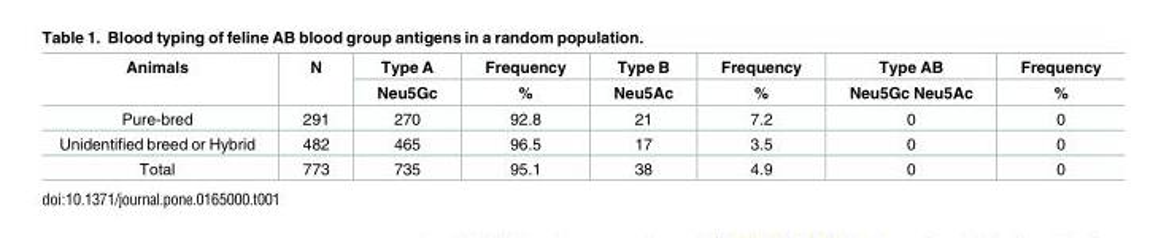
<table><thead><tr><td rowspan="2">Animals</td><td rowspan="2">N</td><td rowspan="2">Type A Neu5Gc</td><td rowspan="2">Frequency %</td><td rowspan="2">Type B Neu5Ac</td><td rowspan="2">Frequency %</td><td rowspan="2">Type AB Neu5Gc Neu5Ac</td><td rowspan="2">Frequency %</td></tr><tr></tr></thead><tbody><tr><td>Pure-bred</td><td>291</td><td>270</td><td>92.8</td><td>21</td><td>7.2</td><td>0</td><td>0</td></tr><tr><td>Unidentified breed or Hybrid</td><td>482</td><td>465</td><td>96.5</td><td>17</td><td>3.5</td><td>0</td><td>0</td></tr><tr><td>Total</td><td>773</td><td>735</td><td>95.1</td><td>38</td><td>4.9</td><td>0</td><td>0</td></tr></tbody></table>